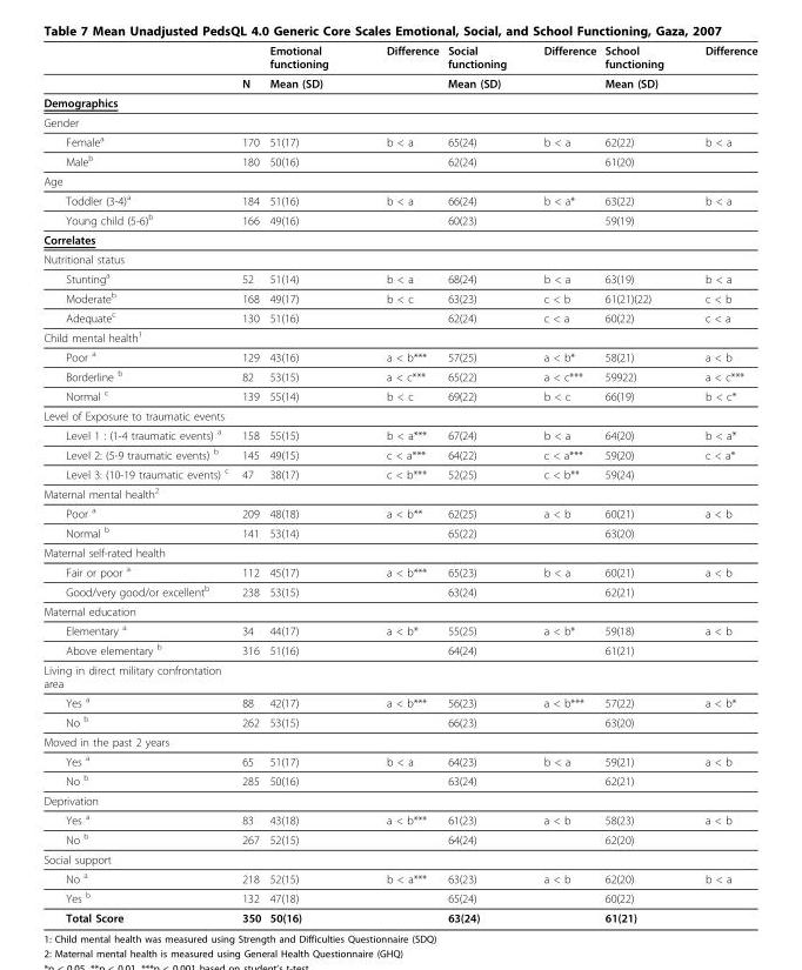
<table><thead><tr><td></td><td></td><td>Emotional functioning</td><td>Difference</td><td>Social functioning</td><td>Difference</td><td>School functioning</td><td>Difference</td></tr></thead><tbody><tr><td></td><td>N</td><td>Mean (SD)</td><td></td><td>Mean (SD)</td><td></td><td>Mean (SD)</td><td></td></tr><tr><td colspan="8">Demographics</td></tr><tr><td colspan="8">Gender</td></tr><tr><td>Female<sup>a</sup></td><td>170</td><td>51(17)</td><td>b &lt; a</td><td>65(24)</td><td>b &lt; a</td><td>62(22)</td><td>b &lt; a</td></tr><tr><td>Male<sup>b</sup></td><td>180</td><td>50(16)</td><td></td><td>62(24)</td><td></td><td>61(20)</td><td></td></tr><tr><td colspan="8">Age</td></tr><tr><td>Toddler (3-4)<sup>a</sup></td><td>184</td><td>51(16)</td><td>b &lt; a</td><td>66(24)</td><td>b &lt; a*</td><td>63(22)</td><td>b &lt; a</td></tr><tr><td>Young child (5-6)<sup>b</sup></td><td>166</td><td>49(16)</td><td></td><td>60(23)</td><td></td><td>59(19)</td><td></td></tr><tr><td colspan="8">Correlates</td></tr><tr><td colspan="8">Nutritional status</td></tr><tr><td>Stunting<sup>a</sup></td><td>52</td><td>51(14)</td><td>b &lt; a</td><td>68(24)</td><td>b &lt; a</td><td>63(19)</td><td>b &lt; a</td></tr><tr><td>Moderate<sup>b</sup></td><td>168</td><td>49(17)</td><td>b &lt; c</td><td>63(23)</td><td>c &lt; b</td><td>61(21)(22)</td><td>c &lt; b</td></tr><tr><td>Adequate<sup>c</sup></td><td>130</td><td>51(16)</td><td></td><td>62(24)</td><td>c &lt; a</td><td>60(22)</td><td>c &lt; a</td></tr><tr><td colspan="8">Child mental health<sup>1</sup></td></tr><tr><td>Poor <sup>a</sup></td><td>129</td><td>43(16)</td><td>a &lt; b***</td><td>57(25)</td><td>a &lt; b*</td><td>58(21)</td><td>a &lt; b</td></tr><tr><td>Borderline <sup>b</sup></td><td>82</td><td>53(15)</td><td>a &lt; c***</td><td>65(22)</td><td>a &lt; c***</td><td>59922)</td><td>a &lt; c***</td></tr><tr><td>Normal <sup>c</sup></td><td>139</td><td>55(14)</td><td>b &lt; c</td><td>69(22)</td><td>b &lt; c</td><td>66(19)</td><td>b &lt; c*</td></tr><tr><td colspan="8">Level of Exposure to traumatic events</td></tr><tr><td>Level 1 : (1-4 traumatic events) <sup>a</sup></td><td>158</td><td>55(15)</td><td>b &lt; a***</td><td>67(24)</td><td>b &lt; a</td><td>64(20)</td><td>b &lt; a*</td></tr><tr><td>Level 2: (5-9 traumatic events) <sup>b</sup></td><td>145</td><td>49(15)</td><td>c &lt; a***</td><td>64(22)</td><td>c &lt; a***</td><td>59(20)</td><td>c &lt; a*</td></tr><tr><td>Level 3: (10-19 traumatic events) <sup>c</sup></td><td>47</td><td>38(17)</td><td>c &lt; b***</td><td>52(25)</td><td>c &lt; b**</td><td>59(24)</td><td></td></tr><tr><td colspan="8">Maternal mental health<sup>2</sup></td></tr><tr><td>Poor <sup>a</sup></td><td>209</td><td>48(18)</td><td>a &lt; b**</td><td>62(25)</td><td>a &lt; b</td><td>60(21)</td><td>a &lt; b</td></tr><tr><td>Normal <sup>b</sup></td><td>141</td><td>53(14)</td><td></td><td>65(22)</td><td></td><td>63(20)</td><td></td></tr><tr><td colspan="8">Maternal self-rated health</td></tr><tr><td>Fair or poor <sup>a</sup></td><td>112</td><td>45(17)</td><td>a &lt; b***</td><td>65(23)</td><td>b &lt; a</td><td>60(21)</td><td>a &lt; b</td></tr><tr><td>Good/very good/or excellent<sup>b</sup></td><td>238</td><td>53(15)</td><td></td><td>63(24)</td><td></td><td>62(21)</td><td></td></tr><tr><td colspan="8">Maternal education</td></tr><tr><td>Elementary <sup>a</sup></td><td>34</td><td>44(17)</td><td>a &lt; b*</td><td>55(25)</td><td>a &lt; b*</td><td>59(18)</td><td>a &lt; b</td></tr><tr><td>Above elementary <sup>b</sup></td><td>316</td><td>51(16)</td><td></td><td>64(24)</td><td></td><td>61(21)</td><td></td></tr><tr><td colspan="8">Living in direct military confrontation area</td></tr><tr><td>Yes <sup>a</sup></td><td>88</td><td>42(17)</td><td>a &lt; b***</td><td>56(23)</td><td>a &lt; b***</td><td>57(22)</td><td>a &lt; b*</td></tr><tr><td>No <sup>b</sup></td><td>262</td><td>53(15)</td><td></td><td>66(23)</td><td></td><td>63(20)</td><td></td></tr><tr><td colspan="8">Moved in the past 2 years</td></tr><tr><td>Yes <sup>a</sup></td><td>65</td><td>51(17)</td><td>b &lt; a</td><td>64(23)</td><td>b &lt; a</td><td>59(21)</td><td>a &lt; b</td></tr><tr><td>No <sup>b</sup></td><td>285</td><td>50(16)</td><td></td><td>63(24)</td><td></td><td>62(21)</td><td></td></tr><tr><td colspan="8">Deprivation</td></tr><tr><td>Yes <sup>a</sup></td><td>83</td><td>43(18)</td><td>a &lt; b***</td><td>61(23)</td><td>a &lt; b</td><td>58(23)</td><td>a &lt; b</td></tr><tr><td>No <sup>b</sup></td><td>267</td><td>52(15)</td><td></td><td>64(24)</td><td></td><td>62(20)</td><td></td></tr><tr><td colspan="8">Social support</td></tr><tr><td>No <sup>a</sup></td><td>218</td><td>52(15)</td><td>b &lt; a***</td><td>63(23)</td><td>a &lt; b</td><td>62(20)</td><td>b &lt; a</td></tr><tr><td>Yes <sup>b</sup></td><td>132</td><td>47(18)</td><td></td><td>65(24)</td><td></td><td>60(22)</td><td></td></tr><tr><td>Total Score</td><td>350</td><td>50(16)</td><td></td><td>63(24)</td><td></td><td>61(21)</td><td></td></tr></tbody></table>